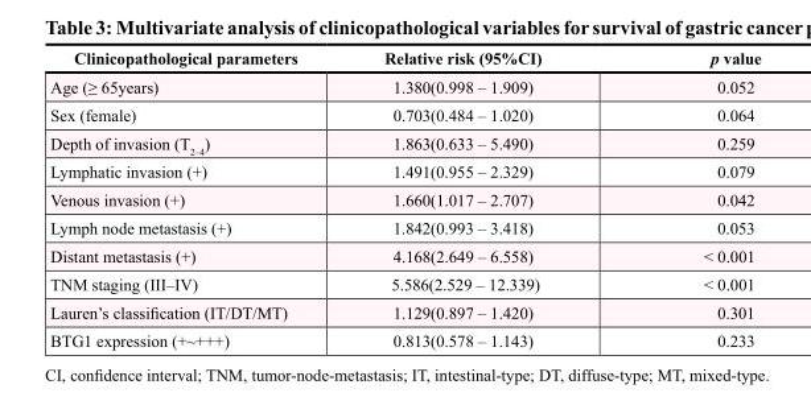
<table><thead><tr><td>Clinicopathological parameters</td><td>Relative risk (95%CI)</td><td>p value</td></tr></thead><tbody><tr><td>Age (≥ 65years)</td><td>1.380(0.998 – 1.909)</td><td>0.052</td></tr><tr><td>Sex (female)</td><td>0.703(0.484 – 1.020)</td><td>0.064</td></tr><tr><td>Depth of invasion (T<sub>2–4</sub>)</td><td>1.863(0.633 – 5.490)</td><td>0.259</td></tr><tr><td>Lymphatic invasion (+)</td><td>1.491(0.955 – 2.329)</td><td>0.079</td></tr><tr><td>Venous invasion (+)</td><td>1.660(1.017 – 2.707)</td><td>0.042</td></tr><tr><td>Lymph node metastasis (+)</td><td>1.842(0.993 – 3.418)</td><td>0.053</td></tr><tr><td>Distant metastasis (+)</td><td>4.168(2.649 – 6.558)</td><td>&lt; 0.001</td></tr><tr><td>TNM staging (III–IV)</td><td>5.586(2.529 – 12.339)</td><td>&lt; 0.001</td></tr><tr><td>Lauren’s classification (IT/DT/MT)</td><td>1.129(0.897 – 1.420)</td><td>0.301</td></tr><tr><td>BTG1 expression (+~+++)</td><td>0.813(0.578 – 1.143)</td><td>0.233</td></tr></tbody></table>